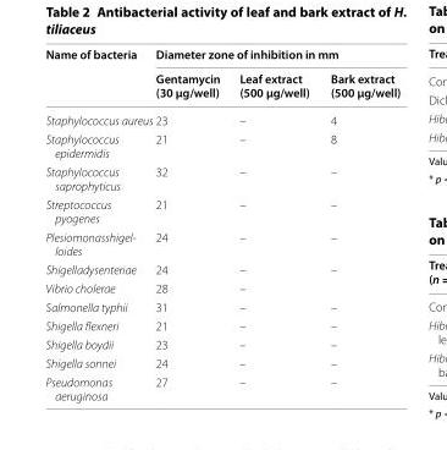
<table><thead><tr><td rowspan="2">Name of bacteria</td><td colspan="3">Diameter zone of inhibition in mm</td></tr><tr><td>Gentamycin (30 μg/well)</td><td>Leaf extract (500 μg/well)</td><td>Bark extract (500 μg/well)</td></tr></thead><tbody><tr><td>Staphylococcus aureus</td><td>23</td><td>–</td><td>4</td></tr><tr><td>Staphylococcus epidermidis</td><td>21</td><td>–</td><td>8</td></tr><tr><td>Staphylococcus saprophyticus</td><td>32</td><td>–</td><td>–</td></tr><tr><td>Streptococcus pyogenes</td><td>21</td><td>–</td><td>–</td></tr><tr><td>Plesiomonasshigel- loides</td><td>24</td><td>–</td><td>–</td></tr><tr><td>Shigelladysenteriae</td><td>24</td><td>–</td><td>–</td></tr><tr><td>Vibrio cholerae</td><td>28</td><td>–</td><td></td></tr><tr><td>Salmonella typhii</td><td>31</td><td>–</td><td>–</td></tr><tr><td>Shigella flexneri</td><td>21</td><td>–</td><td>–</td></tr><tr><td>Shigella boydii</td><td>23</td><td>–</td><td>–</td></tr><tr><td>Shigella sonnei</td><td>24</td><td>–</td><td>–</td></tr><tr><td>Pseudomonas aeruginosa</td><td>27</td><td>–</td><td>–</td></tr></tbody></table>